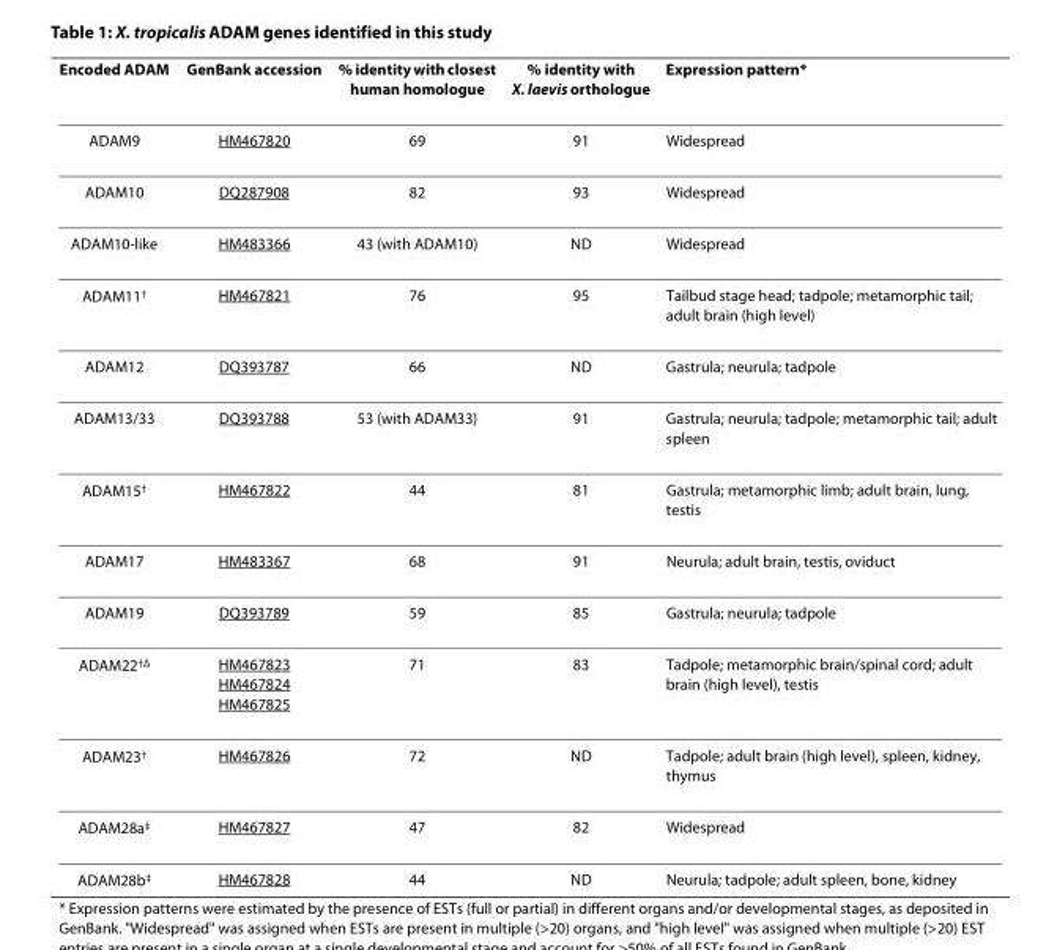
<table><thead><tr><td>Encoded ADAM</td><td>GenBank accession</td><td>% identity with closest human homologue</td><td>% identity with X. laevis orthologue</td><td>Expression pattern*</td></tr></thead><tbody><tr><td>ADAM9</td><td>HM467820</td><td>69</td><td>91</td><td>Widespread</td></tr><tr><td>ADAM10</td><td>DQ287908</td><td>82</td><td>93</td><td>Widespread</td></tr><tr><td>ADAM10-like</td><td>HM483366</td><td>43 (with ADAM10)</td><td>ND</td><td>Widespread</td></tr><tr><td>ADAM11<sup>†</sup></td><td>HM467821</td><td>76</td><td>95</td><td>Tailbud stage head; tadpole; metamorphic tail; adult brain (high level)</td></tr><tr><td>ADAM12</td><td>DQ393787</td><td>66</td><td>ND</td><td>Gastrula; neurula; tadpole</td></tr><tr><td>ADAM13/33</td><td>DQ393788</td><td>53 (with ADAM33)</td><td>91</td><td>Gastrula; neurula; tadpole; metamorphic tail; adult spleen</td></tr><tr><td>ADAM15<sup>†</sup></td><td>HM467822</td><td>44</td><td>81</td><td>Gastrula; metamorphic limb; adult brain, lung, testis</td></tr><tr><td>ADAM17</td><td>HM483367</td><td>68</td><td>91</td><td>Neurula; adult brain, testis, oviduct</td></tr><tr><td>ADAM19</td><td>DQ393789</td><td>59</td><td>85</td><td>Gastrula; neurula; tadpole</td></tr><tr><td>ADAM22<sup>†Δ</sup></td><td>HM467823 HM467824 HM467825</td><td>71</td><td>83</td><td>Tadpole; metamorphic brain/spinal cord; adult brain (high level), testis</td></tr><tr><td>ADAM23<sup>†</sup></td><td>HM467826</td><td>72</td><td>ND</td><td>Tadpole; adult brain (high level), spleen, kidney, thymus</td></tr><tr><td>ADAM28a<sup>‡</sup></td><td>HM467827</td><td>47</td><td>82</td><td>Widespread</td></tr><tr><td>ADAM28b<sup>‡</sup></td><td>HM467828</td><td>44</td><td>ND</td><td>Neurula; tadpole; adult spleen, bone, kidney</td></tr></tbody></table>